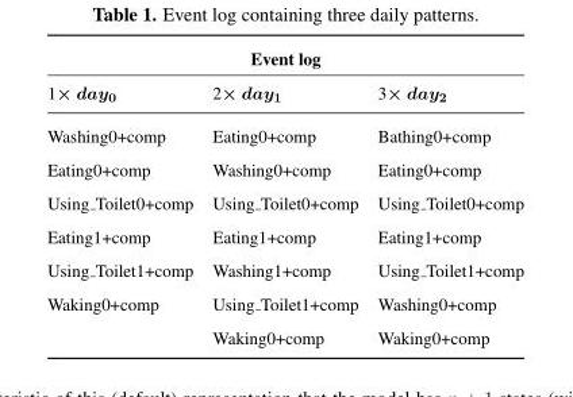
<table><thead><tr><td colspan="3">Event log</td></tr><tr><td>1× day0</td><td>2× day<sub>1</sub></td><td>3× day<sub>2</sub></td></tr></thead><tbody><tr><td>Washing0+comp</td><td>Eating0+comp</td><td>Bathing0+comp</td></tr><tr><td>Eating0+comp</td><td>Washing0+comp</td><td>Eating0+comp</td></tr><tr><td>Using Toilet0+comp</td><td>Using Toilet0+comp</td><td>Using Toilet0+comp</td></tr><tr><td>Eating1+comp</td><td>Eating1+comp</td><td>Eating1+comp</td></tr><tr><td>Using Toilet1+comp</td><td>Washing1+comp</td><td>Using Toilet1+comp</td></tr><tr><td rowspan="2">Waking0+comp</td><td>Using Toilet1+comp</td><td>Washing0+comp</td></tr><tr><td>Waking0+comp</td><td>Waking0+comp</td></tr></tbody></table>